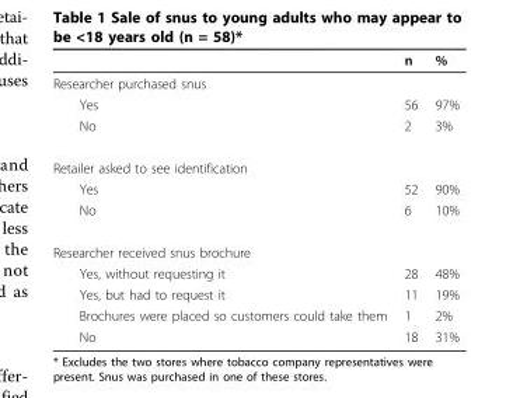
<table><thead><tr><td></td><td>n</td><td>%</td></tr></thead><tbody><tr><td colspan="3">Researcher purchased snus</td></tr><tr><td>Yes</td><td>56</td><td>97%</td></tr><tr><td>No</td><td>2</td><td>3%</td></tr><tr><td colspan="3">Retailer asked to see identification</td></tr><tr><td>Yes</td><td>52</td><td>90%</td></tr><tr><td>No</td><td>6</td><td>10%</td></tr><tr><td colspan="3">Researcher received snus brochure</td></tr><tr><td>Yes, without requesting it</td><td>28</td><td>48%</td></tr><tr><td>Yes, but had to request it</td><td>11</td><td>19%</td></tr><tr><td>Brochures were placed so customers could take them</td><td>1</td><td>2%</td></tr><tr><td>No</td><td>18</td><td>31%</td></tr></tbody></table>